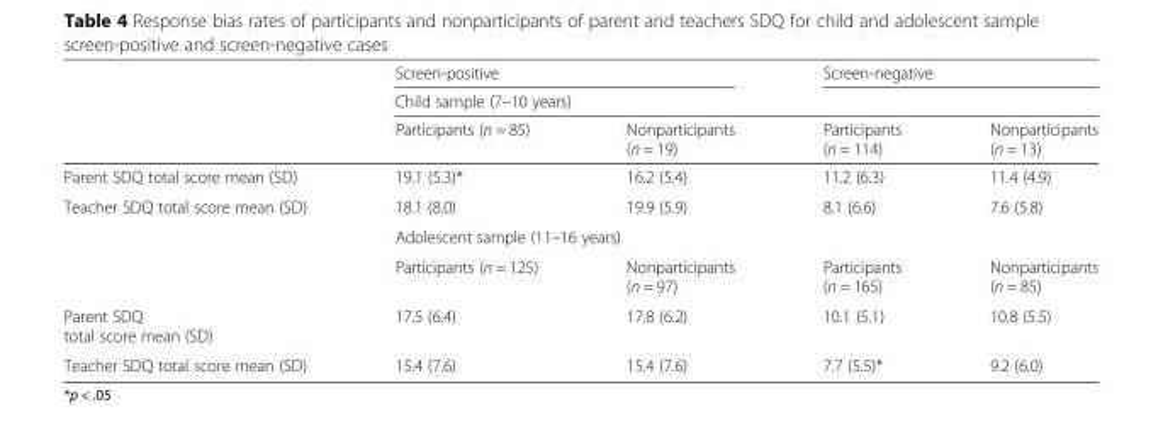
<table><thead><tr><td rowspan="3"></td><td colspan="2">Screen-positive</td><td colspan="2">Screen-negative</td></tr><tr><td colspan="4">Child sample (7–10 years)</td></tr><tr><td>Participants (n = 85)</td><td>Nonparticipants (n = 19)</td><td>Participants (n = 114)</td><td>Nonparticipants (n = 13)</td></tr></thead><tbody><tr><td>Parent SDQ total score mean (SD)</td><td>19.1 (5.3)*</td><td>16.2 (5.4)</td><td>11.2 (6.3)</td><td>11.4 (4.9)</td></tr><tr><td rowspan="3">Teacher SDQ total score mean (SD)</td><td>18.1 (8.0)</td><td>19.9 (5.9)</td><td>8.1 (6.6)</td><td>7.6 (5.8)</td></tr><tr><td colspan="4">Adolescent sample (11–16 years)</td></tr><tr><td>Participants (n = 125)</td><td>Nonparticipants (n = 97)</td><td>Participants (n = 165)</td><td>Nonparticipants (n = 85)</td></tr><tr><td>Parent SDQ total score mean (SD)</td><td>17.5 (6.4)</td><td>17.8 (6.2)</td><td>10.1 (5.1)</td><td>10.8 (5.5)</td></tr><tr><td>Teacher SDQ total score mean (SD)</td><td>15.4 (7.6)</td><td>15.4 (7.6)</td><td>7.7 (5.5)*</td><td>9.2 (6.0)</td></tr></tbody></table>